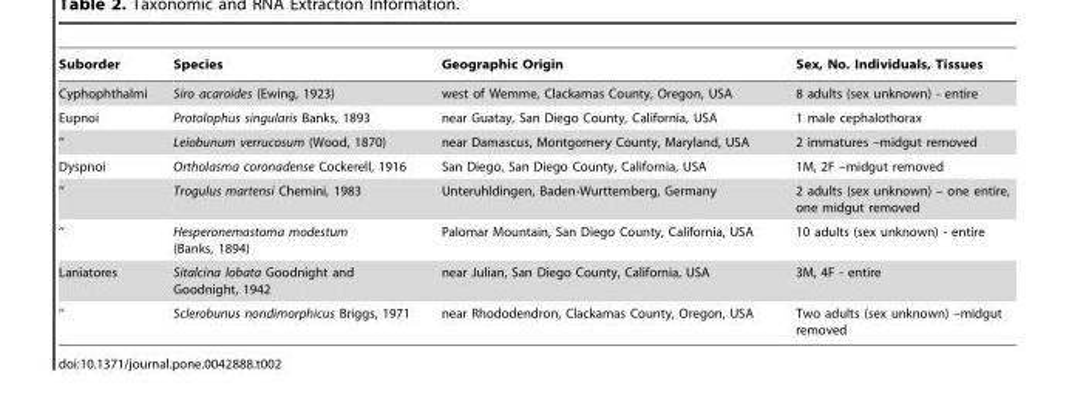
<table><thead><tr><td>Suborder</td><td>Species</td><td>Geographic Origin</td><td>Sex, No. Individuals, Tissues</td></tr></thead><tbody><tr><td>Cyphophthalmi</td><td>Siro acaroides (Ewing, 1923)</td><td>west of Wemme, Clackamas County, Oregon, USA</td><td>8 adults (sex unknown) - entire</td></tr><tr><td>Eupnoi</td><td>Protolophus singularis Banks, 1893</td><td>near Guatay, San Diego County, California, USA</td><td>1 male cephalothorax</td></tr><tr><td>‘‘</td><td>Leiobunum verrucosum (Wood, 1870)</td><td>near Damascus, Montgomery County, Maryland, USA</td><td>2 immatures –midgut removed</td></tr><tr><td>Dyspnoi</td><td>Ortholasma coronadense Cockerell, 1916</td><td>San Diego, San Diego County, California, USA</td><td>1M, 2F –midgut removed</td></tr><tr><td>‘‘</td><td>Trogulus martensi Chemini, 1983</td><td>Unteruhldingen, Baden-Wurttemberg, Germany</td><td>2 adults (sex unknown) – one entire, one midgut removed</td></tr><tr><td>‘‘</td><td>Hesperonemastoma modestum (Banks, 1894)</td><td>Palomar Mountain, San Diego County, California, USA</td><td>10 adults (sex unknown) - entire</td></tr><tr><td>Laniatores</td><td>Sitalcina lobata Goodnight and Goodnight, 1942</td><td>near Julian, San Diego County, California, USA</td><td>3M, 4F - entire</td></tr><tr><td>‘‘</td><td>Sclerobunus nondimorphicus Briggs, 1971</td><td>near Rhododendron, Clackamas County, Oregon, USA</td><td>Two adults (sex unknown) –midgut removed</td></tr></tbody></table>